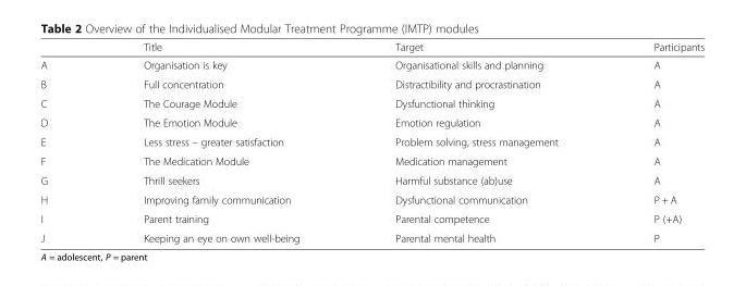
<table><thead><tr><td></td><td>Title</td><td>Target</td><td>Participants</td></tr></thead><tbody><tr><td>A</td><td>Organisation is key</td><td>Organisational skills and planning</td><td>A</td></tr><tr><td>B</td><td>Full concentration</td><td>Distractibility and procrastination</td><td>A</td></tr><tr><td>C</td><td>The Courage Module</td><td>Dysfunctional thinking</td><td>A</td></tr><tr><td>D</td><td>The Emotion Module</td><td>Emotion regulation</td><td>A</td></tr><tr><td>E</td><td>Less stress – greater satisfaction</td><td>Problem solving, stress management</td><td>A</td></tr><tr><td>F</td><td>The Medication Module</td><td>Medication management</td><td>A</td></tr><tr><td>G</td><td>Thrill seekers</td><td>Harmful substance (ab)use</td><td>A</td></tr><tr><td>H</td><td>Improving family communication</td><td>Dysfunctional communication</td><td>P + A</td></tr><tr><td>I</td><td>Parent training</td><td>Parental competence</td><td>P (+A)</td></tr><tr><td>J</td><td>Keeping an eye on own well-being</td><td>Parental mental health</td><td>P</td></tr></tbody></table>